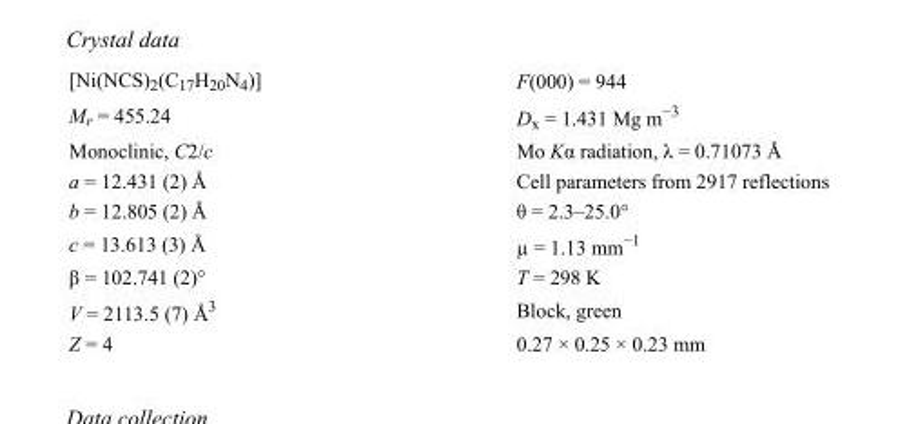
<table><tbody><tr><td>[Ni(NCS)<sub>2</sub>(C<sub>17</sub>H<sub>20</sub>N<sub>4</sub>)]</td><td>F(000) = 944</td></tr><tr><td>M<sub>r</sub> = 455.24</td><td>D<sub>x</sub> = 1.431 Mg m<sup>−3</sup></td></tr><tr><td>Monoclinic, C2/c</td><td>Mo Kα radiation, λ = 0.71073 Å</td></tr><tr><td>a = 12.431 (2) Å</td><td>Cell parameters from 2917 reflections</td></tr><tr><td>b = 12.805 (2) Å</td><td>θ = 2.3–25.0°</td></tr><tr><td>c = 13.613 (3) Å</td><td>µ = 1.13 mm<sup>−1</sup></td></tr><tr><td>β = 102.741 (2)°</td><td>T = 298 K</td></tr><tr><td>V = 2113.5 (7) Å<sup>3</sup></td><td>Block, green</td></tr><tr><td>Z = 4</td><td>0.27 × 0.25 × 0.23 mm</td></tr></tbody></table>